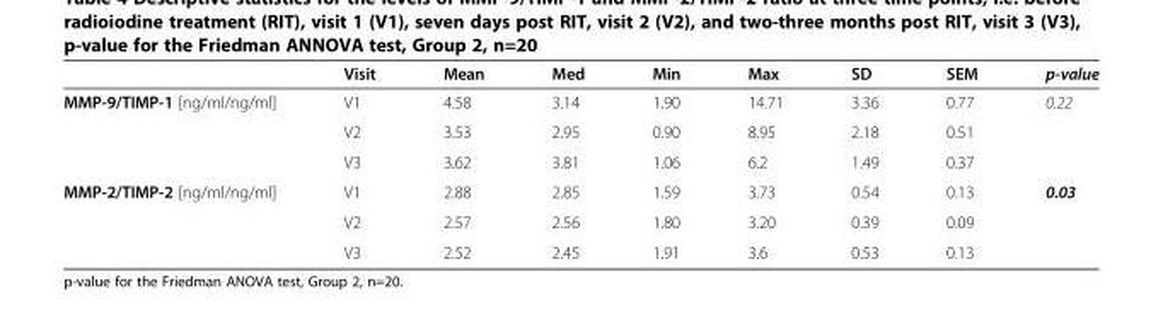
<table><thead><tr><td></td><td>Visit</td><td>Mean</td><td>Med</td><td>Min</td><td>Max</td><td>SD</td><td>SEM</td><td>p-value</td></tr></thead><tbody><tr><td rowspan="3">MMP-9/TIMP-1 [ng/ml/ng/ml]</td><td>V1</td><td>4.58</td><td>3.14</td><td>1.90</td><td>14.71</td><td>3.36</td><td>0.77</td><td rowspan="3">0.22</td></tr><tr><td>V2</td><td>3.53</td><td>2.95</td><td>0.90</td><td>8.95</td><td>2.18</td><td>0.51</td></tr><tr><td>V3</td><td>3.62</td><td>3.81</td><td>1.06</td><td>6.2</td><td>1.49</td><td>0.37</td></tr><tr><td rowspan="3">MMP-2/TIMP-2 [ng/ml/ng/ml]</td><td>V1</td><td>2.88</td><td>2.85</td><td>1.59</td><td>3.73</td><td>0.54</td><td>0.13</td><td rowspan="2">0.03</td></tr><tr><td>V2</td><td>2.57</td><td>2.56</td><td>1.80</td><td>3.20</td><td>0.39</td><td>0.09</td></tr><tr><td>V3</td><td>2.52</td><td>2.45</td><td>1.91</td><td>3.6</td><td>0.53</td><td>0.13</td><td></td></tr></tbody></table>